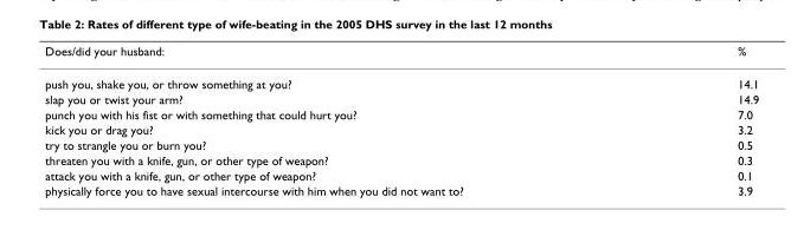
<table><thead><tr><td>Does/did your husband:</td><td>%</td></tr></thead><tbody><tr><td>push you, shake you, or throw something at you?</td><td>14.1</td></tr><tr><td>slap you or twist your arm?</td><td>14.9</td></tr><tr><td>punch you with his fist or with something that could hurt you?</td><td>7.0</td></tr><tr><td>kick you or drag you?</td><td>3.2</td></tr><tr><td>try to strangle you or burn you?</td><td>0.5</td></tr><tr><td>threaten you with a knife, gun, or other type of weapon?</td><td>0.3</td></tr><tr><td>attack you with a knife, gun, or other type of weapon?</td><td>0.1</td></tr><tr><td>physically force you to have sexual intercourse with him when you did not want to?</td><td>3.9</td></tr></tbody></table>